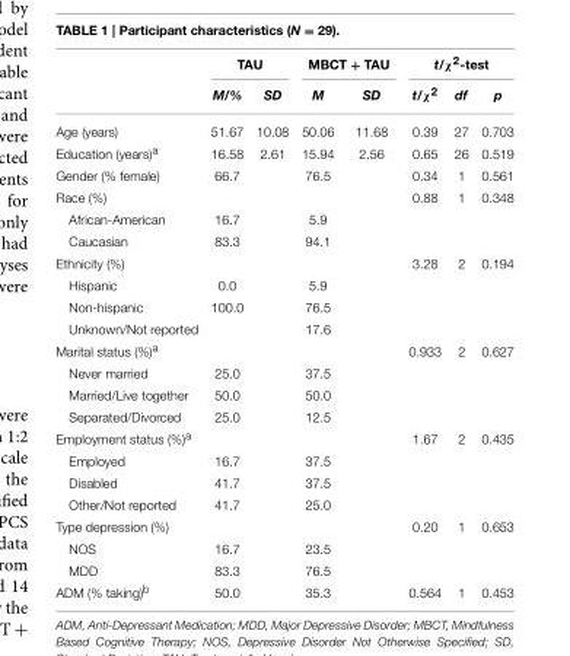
<table><thead><tr><td rowspan="2"></td><td colspan="2">TAU</td><td colspan="2">MBCT + TAU</td><td colspan="3">t/χ<sup>2</sup>-test</td></tr><tr><td>M/%</td><td>SD</td><td>M</td><td>SD</td><td>t/χ<sup>2</sup></td><td>df</td><td>p</td></tr></thead><tbody><tr><td>Age (years)</td><td>51.67</td><td>10.08</td><td>50.06</td><td>11.68</td><td>0.39</td><td>27</td><td>0.703</td></tr><tr><td>Education (years)<sup>a</sup></td><td>16.58</td><td>2.61</td><td>15.94</td><td>2.56</td><td>0.65</td><td>26</td><td>0.519</td></tr><tr><td>Gender (% female)</td><td>66.7</td><td></td><td>76.5</td><td></td><td>0.34</td><td>1</td><td>0.561</td></tr><tr><td>Race (%)</td><td></td><td></td><td></td><td></td><td>0.88</td><td>1</td><td>0.348</td></tr><tr><td>African-American</td><td>16.7</td><td></td><td>5.9</td><td></td><td></td><td></td><td></td></tr><tr><td>Caucasian</td><td>83.3</td><td></td><td>94.1</td><td></td><td></td><td></td><td></td></tr><tr><td>Ethnicity (%)</td><td></td><td></td><td></td><td></td><td>3.28</td><td>2</td><td>0.194</td></tr><tr><td>Hispanic</td><td>0.0</td><td></td><td>5.9</td><td></td><td></td><td></td><td></td></tr><tr><td>Non-hispanic</td><td>100.0</td><td></td><td>76.5</td><td></td><td></td><td></td><td></td></tr><tr><td>Unknown/Not reported</td><td></td><td></td><td>17.6</td><td></td><td></td><td></td><td></td></tr><tr><td>Marital status (%)<sup>a</sup></td><td></td><td></td><td></td><td></td><td>0.933</td><td>2</td><td>0.627</td></tr><tr><td>Never married</td><td>25.0</td><td></td><td>37.5</td><td></td><td></td><td></td><td></td></tr><tr><td>Married/Live together</td><td>50.0</td><td></td><td>50.0</td><td></td><td></td><td></td><td></td></tr><tr><td>Separated/Divorced</td><td>25.0</td><td></td><td>12.5</td><td></td><td></td><td></td><td></td></tr><tr><td>Employment status (%)<sup>a</sup></td><td></td><td></td><td></td><td></td><td>1.67</td><td>2</td><td>0.435</td></tr><tr><td>Employed</td><td>16.7</td><td></td><td>37.5</td><td></td><td></td><td></td><td></td></tr><tr><td>Disabled</td><td>41.7</td><td></td><td>37.5</td><td></td><td></td><td></td><td></td></tr><tr><td>Other/Not reported</td><td>41.7</td><td></td><td>25.0</td><td></td><td></td><td></td><td></td></tr><tr><td>Type depression (%)</td><td></td><td></td><td></td><td></td><td>0.20</td><td>1</td><td>0.653</td></tr><tr><td>NOS</td><td>16.7</td><td></td><td>23.5</td><td></td><td></td><td></td><td></td></tr><tr><td>MDD</td><td>83.3</td><td></td><td>76.5</td><td></td><td></td><td></td><td></td></tr><tr><td>ADM (% taking)<sup>b</sup></td><td>50.0</td><td></td><td>35.3</td><td></td><td>0.564</td><td>1</td><td>0.453</td></tr></tbody></table>